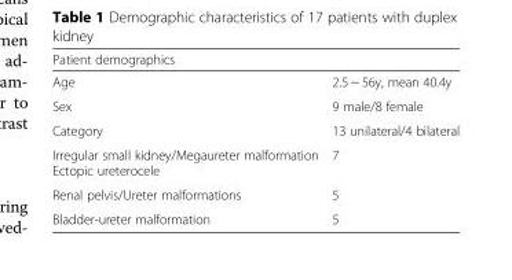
<table><thead><tr><td colspan="2">Patient demographics</td></tr><tr><td>Age</td><td>2.5 ~ 56y, mean 40.4y</td></tr></thead><tbody><tr><td>Sex</td><td>9 male/8 female</td></tr><tr><td>Category</td><td>13 unilateral/4 bilateral</td></tr><tr><td>Irregular small kidney/Megaureter malformation Ectopic ureterocele</td><td>7</td></tr><tr><td>Renal pelvis/Ureter malformations</td><td>5</td></tr><tr><td>Bladder-ureter malformation</td><td>5</td></tr></tbody></table>